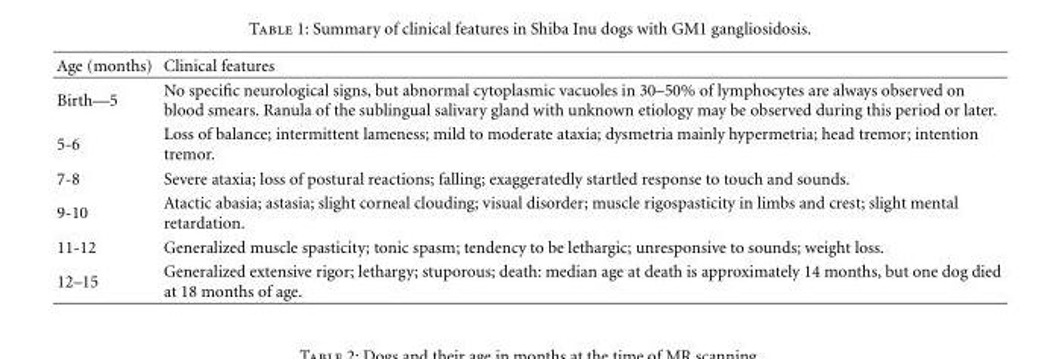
<table><thead><tr><td>Age (months)</td><td>Clinical features</td></tr></thead><tbody><tr><td>Birth—5</td><td>No specific neurological signs, but abnormal cytoplasmic vacuoles in 30–50% of lymphocytes are always observed on blood smears. Ranula of the sublingual salivary gland with unknown etiology may be observed during this period or later.</td></tr><tr><td>5-6</td><td>Loss of balance; intermittent lameness; mild to moderate ataxia; dysmetria mainly hypermetria; head tremor; intention tremor.</td></tr><tr><td>7-8</td><td>Severe ataxia; loss of postural reactions; falling; exaggeratedly startled response to touch and sounds.</td></tr><tr><td>9-10</td><td>Atactic abasia; astasia; slight corneal clouding; visual disorder; muscle rigospasticity in limbs and crest; slight mental retardation.</td></tr><tr><td>11-12</td><td>Generalized muscle spasticity; tonic spasm; tendency to be lethargic; unresponsive to sounds; weight loss.</td></tr><tr><td>12–15</td><td>Generalized extensive rigor; lethargy; stuporous; death: median age at death is approximately 14 months, but one dog died at 18 months of age.</td></tr></tbody></table>